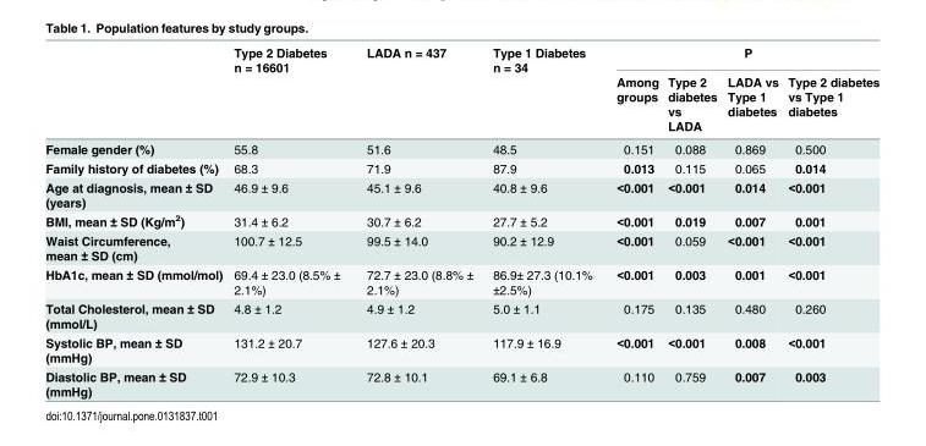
<table><thead><tr><td rowspan="2"></td><td rowspan="2">Type 2 Diabetes n = 16601</td><td rowspan="2">LADA n = 437</td><td rowspan="2">Type 1 Diabetes n = 34</td><td colspan="4">P</td></tr><tr><td>Among groups</td><td>Type 2 diabetes vs LADA</td><td>LADA vs Type 1 diabetes</td><td>Type 2 diabetes vs Type 1 diabetes</td></tr></thead><tbody><tr><td>Female gender (%)</td><td>55.8</td><td>51.6</td><td>48.5</td><td>0.151</td><td>0.088</td><td>0.869</td><td>0.500</td></tr><tr><td>Family history of diabetes (%)</td><td>68.3</td><td>71.9</td><td>87.9</td><td>0.013</td><td>0.115</td><td>0.065</td><td>0.014</td></tr><tr><td>Age at diagnosis, mean ± SD (years)</td><td>46.9 ± 9.6</td><td>45.1 ± 9.6</td><td>40.8 ± 9.6</td><td>&lt;0.001</td><td>&lt;0.001</td><td>0.014</td><td>&lt;0.001</td></tr><tr><td>BMI, mean ± SD (Kg/m<sup>2</sup>)</td><td>31.4 ± 6.2</td><td>30.7 ± 6.2</td><td>27.7 ± 5.2</td><td>&lt;0.001</td><td>0.019</td><td>0.007</td><td>0.001</td></tr><tr><td>Waist Circumference, mean ± SD (cm)</td><td>100.7 ± 12.5</td><td>99.5 ± 14.0</td><td>90.2 ± 12.9</td><td>&lt;0.001</td><td>0.059</td><td>&lt;0.001</td><td>&lt;0.001</td></tr><tr><td>HbA1c, mean ± SD (mmol/mol)</td><td>69.4 ± 23.0 (8.5% ± 2.1%)</td><td>72.7 ± 23.0 (8.8% ± 2.1%)</td><td>86.9± 27.3 (10.1% ±2.5%)</td><td>&lt;0.001</td><td>0.003</td><td>0.001</td><td>&lt;0.001</td></tr><tr><td>Total Cholesterol, mean ± SD (mmol/L)</td><td>4.8 ± 1.2</td><td>4.9 ± 1.2</td><td>5.0 ± 1.1</td><td>0.175</td><td>0.135</td><td>0.480</td><td>0.260</td></tr><tr><td>Systolic BP, mean ± SD (mmHg)</td><td>131.2 ± 20.7</td><td>127.6 ± 20.3</td><td>117.9 ± 16.9</td><td>&lt;0.001</td><td>&lt;0.001</td><td>0.008</td><td>&lt;0.001</td></tr><tr><td>Diastolic BP, mean ± SD (mmHg)</td><td>72.9 ± 10.3</td><td>72.8 ± 10.1</td><td>69.1 ± 6.8</td><td>0.110</td><td>0.759</td><td>0.007</td><td>0.003</td></tr></tbody></table>